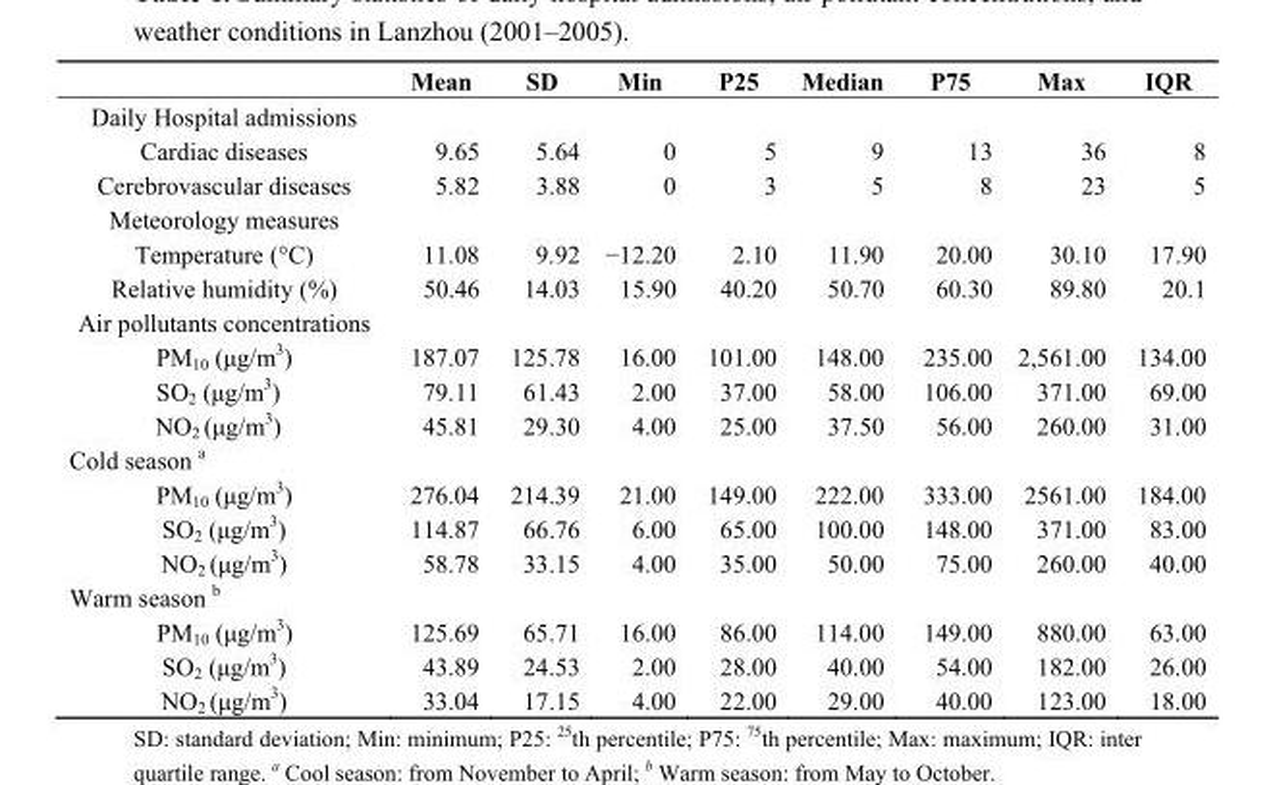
<table><thead><tr><td></td><td>Mean</td><td>SD</td><td>Min</td><td>P25</td><td>Median</td><td>P75</td><td>Max</td><td>IQR</td></tr></thead><tbody><tr><td colspan="9">Daily Hospital admissions</td></tr><tr><td>Cardiac diseases</td><td>9.65</td><td>5.64</td><td>0</td><td>5</td><td>9</td><td>13</td><td>36</td><td>8</td></tr><tr><td>Cerebrovascular diseases</td><td>5.82</td><td>3.88</td><td>0</td><td>3</td><td>5</td><td>8</td><td>23</td><td>5</td></tr><tr><td colspan="9">Meteorology measures</td></tr><tr><td>Temperature (°C)</td><td>11.08</td><td>9.92</td><td>−12.20</td><td>2.10</td><td>11.90</td><td>20.00</td><td>30.10</td><td>17.90</td></tr><tr><td>Relative humidity (%)</td><td>50.46</td><td>14.03</td><td>15.90</td><td>40.20</td><td>50.70</td><td>60.30</td><td>89.80</td><td>20.1</td></tr><tr><td colspan="9">Air pollutants concentrations</td></tr><tr><td>PM<sub>10</sub> (μg/m<sup>3</sup>)</td><td>187.07</td><td>125.78</td><td>16.00</td><td>101.00</td><td>148.00</td><td>235.00</td><td>2,561.00</td><td>134.00</td></tr><tr><td>SO<sub>2</sub> (μg/m<sup>3</sup>)</td><td>79.11</td><td>61.43</td><td>2.00</td><td>37.00</td><td>58.00</td><td>106.00</td><td>371.00</td><td>69.00</td></tr><tr><td>NO<sub>2</sub> (μg/m<sup>3</sup>)</td><td>45.81</td><td>29.30</td><td>4.00</td><td>25.00</td><td>37.50</td><td>56.00</td><td>260.00</td><td>31.00</td></tr><tr><td colspan="9">Cold season <sup>a</sup></td></tr><tr><td>PM<sub>10</sub> (μg/m<sup>3</sup>)</td><td>276.04</td><td>214.39</td><td>21.00</td><td>149.00</td><td>222.00</td><td>333.00</td><td>2561.00</td><td>184.00</td></tr><tr><td>SO<sub>2</sub> (μg/m<sup>3</sup>)</td><td>114.87</td><td>66.76</td><td>6.00</td><td>65.00</td><td>100.00</td><td>148.00</td><td>371.00</td><td>83.00</td></tr><tr><td>NO<sub>2</sub> (μg/m<sup>3</sup>)</td><td>58.78</td><td>33.15</td><td>4.00</td><td>35.00</td><td>50.00</td><td>75.00</td><td>260.00</td><td>40.00</td></tr><tr><td colspan="9">Warm season <sup>b</sup></td></tr><tr><td>PM<sub>10</sub> (μg/m<sup>3</sup>)</td><td>125.69</td><td>65.71</td><td>16.00</td><td>86.00</td><td>114.00</td><td>149.00</td><td>880.00</td><td>63.00</td></tr><tr><td>SO<sub>2</sub> (μg/m<sup>3</sup>)</td><td>43.89</td><td>24.53</td><td>2.00</td><td>28.00</td><td>40.00</td><td>54.00</td><td>182.00</td><td>26.00</td></tr><tr><td>NO<sub>2</sub> (μg/m<sup>3</sup>)</td><td>33.04</td><td>17.15</td><td>4.00</td><td>22.00</td><td>29.00</td><td>40.00</td><td>123.00</td><td>18.00</td></tr></tbody></table>